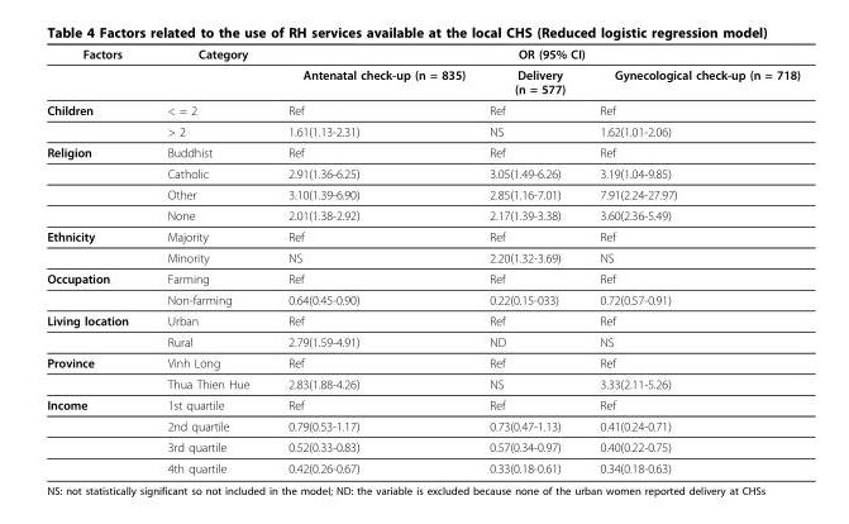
<table><thead><tr><td rowspan="2">Factors</td><td rowspan="2">Category</td><td colspan="3">OR (95% CI)</td></tr><tr><td>Antenatal check-up (n = 835)</td><td>Delivery (n = 577)</td><td>Gynecological check-up (n = 718)</td></tr></thead><tbody><tr><td rowspan="2">Children</td><td>&lt; = 2</td><td>Ref</td><td>Ref</td><td>Ref</td></tr><tr><td>&gt; 2</td><td>1.61(1.13-2.31)</td><td>NS</td><td>1.62(1.01-2.06)</td></tr><tr><td rowspan="4">Religion</td><td>Buddhist</td><td>Ref</td><td>Ref</td><td>Ref</td></tr><tr><td>Catholic</td><td>2.91(1.36-6.25)</td><td>3.05(1.49-6.26)</td><td>3.19(1.04-9.85)</td></tr><tr><td>Other</td><td>3.10(1.39-6.90)</td><td>2.85(1.16-7.01)</td><td>7.91(2.24-27.97)</td></tr><tr><td>None</td><td>2.01(1.38-2.92)</td><td>2.17(1.39-3.38)</td><td>3.60(2.36-5.49)</td></tr><tr><td rowspan="2">Ethnicity</td><td>Majority</td><td>Ref</td><td>Ref</td><td>Ref</td></tr><tr><td>Minority</td><td>NS</td><td>2.20(1.32-3.69)</td><td>NS</td></tr><tr><td rowspan="2">Occupation</td><td>Farming</td><td>Ref</td><td>Ref</td><td>Ref</td></tr><tr><td>Non-farming</td><td>0.64(0.45-0.90)</td><td>0.22(0.15-033)</td><td>0.72(0.57-0.91)</td></tr><tr><td rowspan="2">Living location</td><td>Urban</td><td>Ref</td><td>Ref</td><td>Ref</td></tr><tr><td>Rural</td><td>2.79(1.59-4.91)</td><td>ND</td><td>NS</td></tr><tr><td rowspan="2">Province</td><td>Vinh Long</td><td>Ref</td><td>Ref</td><td>Ref</td></tr><tr><td>Thua Thien Hue</td><td>2.83(1.88-4.26)</td><td>NS</td><td>3.33(2.11-5.26)</td></tr><tr><td rowspan="4">Income</td><td>1st quartile</td><td>Ref</td><td>Ref</td><td>Ref</td></tr><tr><td>2nd quartile</td><td>0.79(0.53-1.17)</td><td>0.73(0.47-1.13)</td><td>0.41(0.24-0.71)</td></tr><tr><td>3rd quartile</td><td>0.52(0.33-0.83)</td><td>0.57(0.34-0.97)</td><td>0.40(0.22-0.75)</td></tr><tr><td>4th quartile</td><td>0.42(0.26-0.67)</td><td>0.33(0.18-0.61)</td><td>0.34(0.18-0.63)</td></tr></tbody></table>